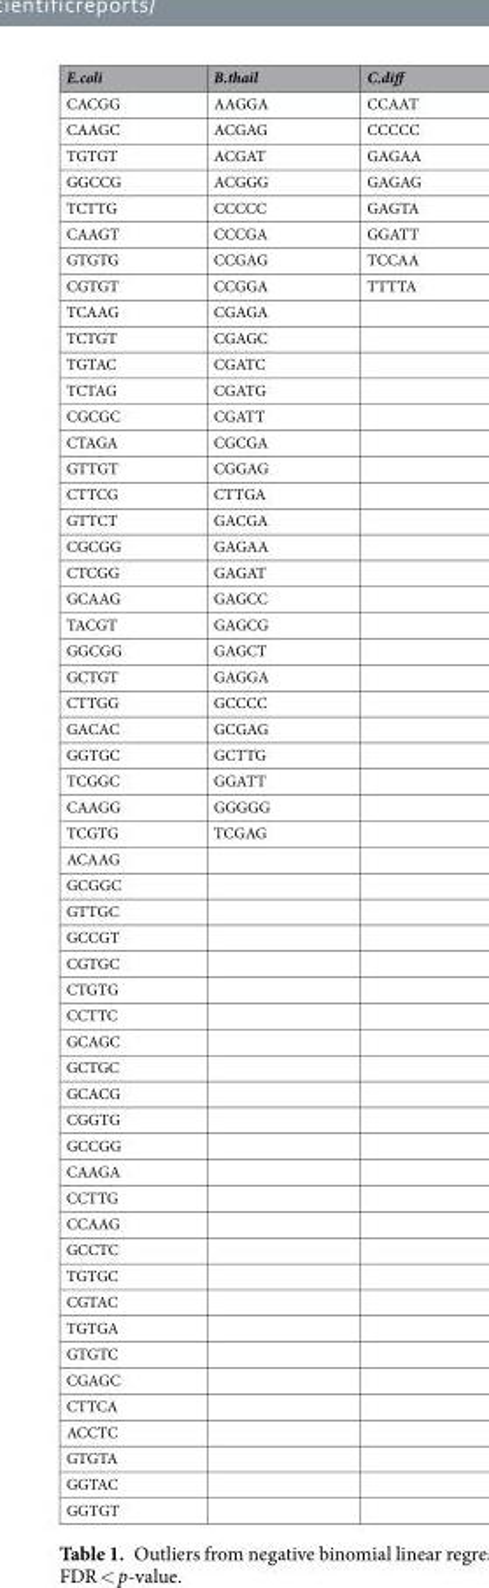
<table><thead><tr><td>E.coli</td><td>B.thail</td><td>C.diff</td></tr></thead><tbody><tr><td>CACGG</td><td>AAGGA</td><td>CCAAT</td></tr><tr><td>CAAGC</td><td>ACGAG</td><td>CCCCC</td></tr><tr><td>TGTGT</td><td>ACGAT</td><td>GAGAA</td></tr><tr><td>GGCCG</td><td>ACGGG</td><td>GAGAG</td></tr><tr><td>TCTTG</td><td>CCCCC</td><td>GAGTA</td></tr><tr><td>CAAGT</td><td>CCCGA</td><td>GGATT</td></tr><tr><td>GTGTG</td><td>CCGAG</td><td>TCCAA</td></tr><tr><td>CGTGT</td><td>CCGGA</td><td>TTTTA</td></tr><tr><td>TCAAG</td><td>CGAGA</td><td></td></tr><tr><td>TCTGT</td><td>CGAGC</td><td></td></tr><tr><td>TGTAC</td><td>CGATC</td><td></td></tr><tr><td>TCTAG</td><td>CGATG</td><td></td></tr><tr><td>CGCGC</td><td>CGATT</td><td></td></tr><tr><td>CTAGA</td><td>CGCGA</td><td></td></tr><tr><td>GTTGT</td><td>CGGAG</td><td></td></tr><tr><td>CTTCG</td><td>CTTGA</td><td></td></tr><tr><td>GTTCT</td><td>GACGA</td><td></td></tr><tr><td>CGCGG</td><td>GAGAA</td><td></td></tr><tr><td>CTCGG</td><td>GAGAT</td><td></td></tr><tr><td>GCAAG</td><td>GAGCC</td><td></td></tr><tr><td>TACGT</td><td>GAGCG</td><td></td></tr><tr><td>GGCGG</td><td>GAGCT</td><td></td></tr><tr><td>GCTGT</td><td>GAGGA</td><td></td></tr><tr><td>CTTGG</td><td>GCCCC</td><td></td></tr><tr><td>GACAC</td><td>GCGAG</td><td></td></tr><tr><td>GGTGC</td><td>GCTTG</td><td></td></tr><tr><td>TCGGC</td><td>GGATT</td><td></td></tr><tr><td>CAAGG</td><td>GGGGG</td><td></td></tr><tr><td>TCGTG</td><td>TCGAG</td><td></td></tr><tr><td colspan="3">ACAAG</td></tr><tr><td colspan="3">GCGGC</td></tr><tr><td colspan="3">GTTGC</td></tr><tr><td colspan="3">GCCGT</td></tr><tr><td colspan="3">CGTGC</td></tr><tr><td colspan="3">CTGTG</td></tr><tr><td colspan="3">CCTTC</td></tr><tr><td colspan="3">GCAGC</td></tr><tr><td colspan="3">GCTGC</td></tr><tr><td colspan="3">GCACG</td></tr><tr><td colspan="3">CGGTG</td></tr><tr><td colspan="3">GCCGG</td></tr><tr><td colspan="3">CAAGA</td></tr><tr><td colspan="3">CCTTG</td></tr><tr><td colspan="3">CCAAG</td></tr><tr><td colspan="3">GCCTC</td></tr><tr><td colspan="3">TGTGC</td></tr><tr><td colspan="3">CGTAC</td></tr><tr><td colspan="3">TGTGA</td></tr><tr><td colspan="3">GTGTC</td></tr><tr><td colspan="3">CGAGC</td></tr><tr><td colspan="3">CTTCA</td></tr><tr><td colspan="3">ACCTC</td></tr><tr><td colspan="3">GTGTA</td></tr><tr><td colspan="3">GGTAC</td></tr><tr><td>GGTGT</td><td></td><td></td></tr></tbody></table>